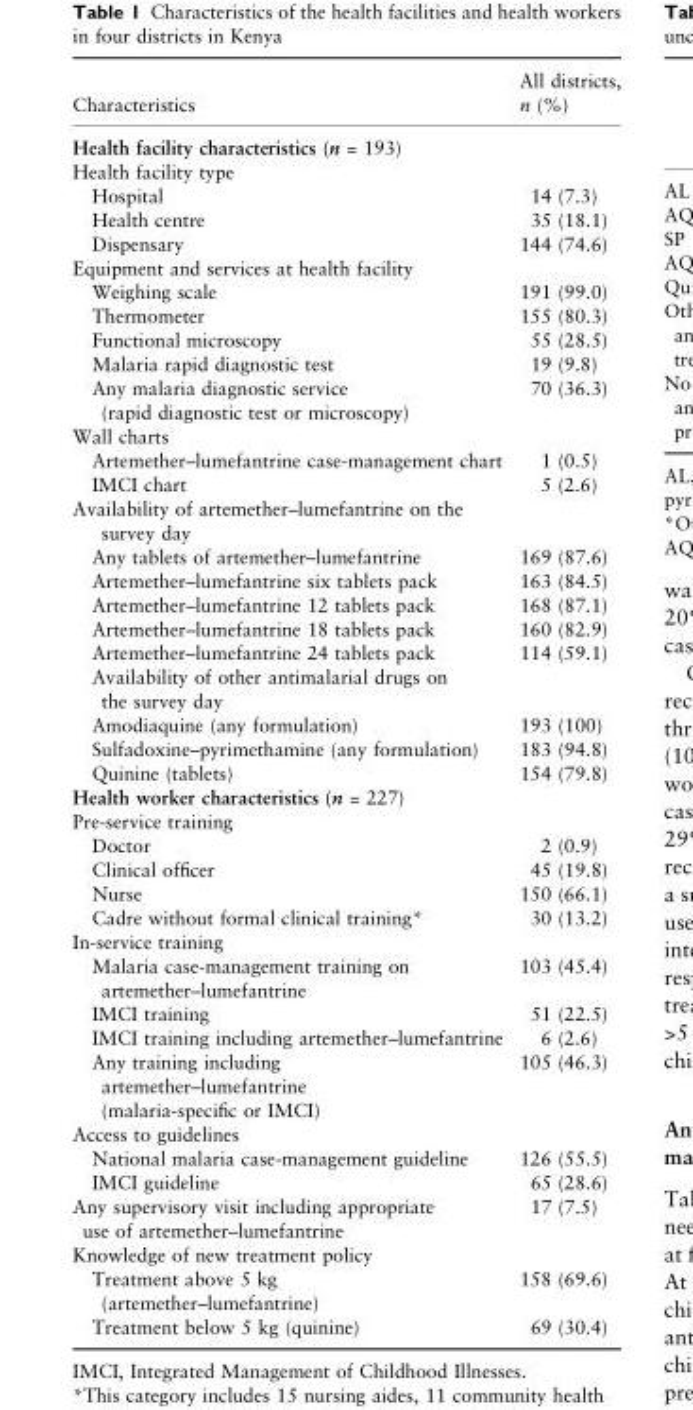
<table><thead><tr><td>Characteristics</td><td>All districts, n (%)</td></tr></thead><tbody><tr><td colspan="2">Health facility characteristics (n = 193)</td></tr><tr><td colspan="2">Health facility type</td></tr><tr><td>Hospital</td><td>14 (7.3)</td></tr><tr><td>Health centre</td><td>35 (18.1)</td></tr><tr><td>Dispensary</td><td>144 (74.6)</td></tr><tr><td colspan="2">Equipment and services at health facility</td></tr><tr><td>Weighing scale</td><td>191 (99.0)</td></tr><tr><td>Thermometer</td><td>155 (80.3)</td></tr><tr><td>Functional microscopy</td><td>55 (28.5)</td></tr><tr><td>Malaria rapid diagnostic test</td><td>19 (9.8)</td></tr><tr><td>Any malaria diagnostic service (rapid diagnostic test or microscopy)</td><td>70 (36.3)</td></tr><tr><td colspan="2">Wall charts</td></tr><tr><td>Artemether–lumefantrine case-management chart</td><td>1 (0.5)</td></tr><tr><td>IMCI chart</td><td>5 (2.6)</td></tr><tr><td colspan="2">Availability of artemether–lumefantrine on the survey day</td></tr><tr><td>Any tablets of artemether–lumefantrine</td><td>169 (87.6)</td></tr><tr><td>Artemether–lumefantrine six tablets pack</td><td>163 (84.5)</td></tr><tr><td>Artemether–lumefantrine 12 tablets pack</td><td>168 (87.1)</td></tr><tr><td>Artemether–lumefantrine 18 tablets pack</td><td>160 (82.9)</td></tr><tr><td>Artemether–lumefantrine 24 tablets pack</td><td>114 (59.1)</td></tr><tr><td colspan="2">Availability of other antimalarial drugs on the survey day</td></tr><tr><td>Amodiaquine (any formulation)</td><td>193 (100)</td></tr><tr><td>Sulfadoxine–pyrimethamine (any formulation)</td><td>183 (94.8)</td></tr><tr><td>Quinine (tablets)</td><td>154 (79.8)</td></tr><tr><td colspan="2">Health worker characteristics (n = 227)</td></tr><tr><td colspan="2">Pre-service training</td></tr><tr><td>Doctor</td><td>2 (0.9)</td></tr><tr><td>Clinical officer</td><td>45 (19.8)</td></tr><tr><td>Nurse</td><td>150 (66.1)</td></tr><tr><td>Cadre without formal clinical training*</td><td>30 (13.2)</td></tr><tr><td colspan="2">In-service training</td></tr><tr><td>Malaria case-management training on artemether–lumefantrine</td><td>103 (45.4)</td></tr><tr><td>IMCI training</td><td>51 (22.5)</td></tr><tr><td>IMCI training including artemether–lumefantrine</td><td>6 (2.6)</td></tr><tr><td>Any training including artemether–lumefantrine (malaria-specific or IMCI)</td><td>105 (46.3)</td></tr><tr><td colspan="2">Access to guidelines</td></tr><tr><td>National malaria case-management guideline</td><td>126 (55.5)</td></tr><tr><td>IMCI guideline</td><td>65 (28.6)</td></tr><tr><td>Any supervisory visit including appropriate use of artemether–lumefantrine</td><td>17 (7.5)</td></tr><tr><td colspan="2">Knowledge of new treatment policy</td></tr><tr><td>Treatment above 5 kg (artemether–lumefantrine)</td><td>158 (69.6)</td></tr><tr><td>Treatment below 5 kg (quinine)</td><td>69 (30.4)</td></tr></tbody></table>